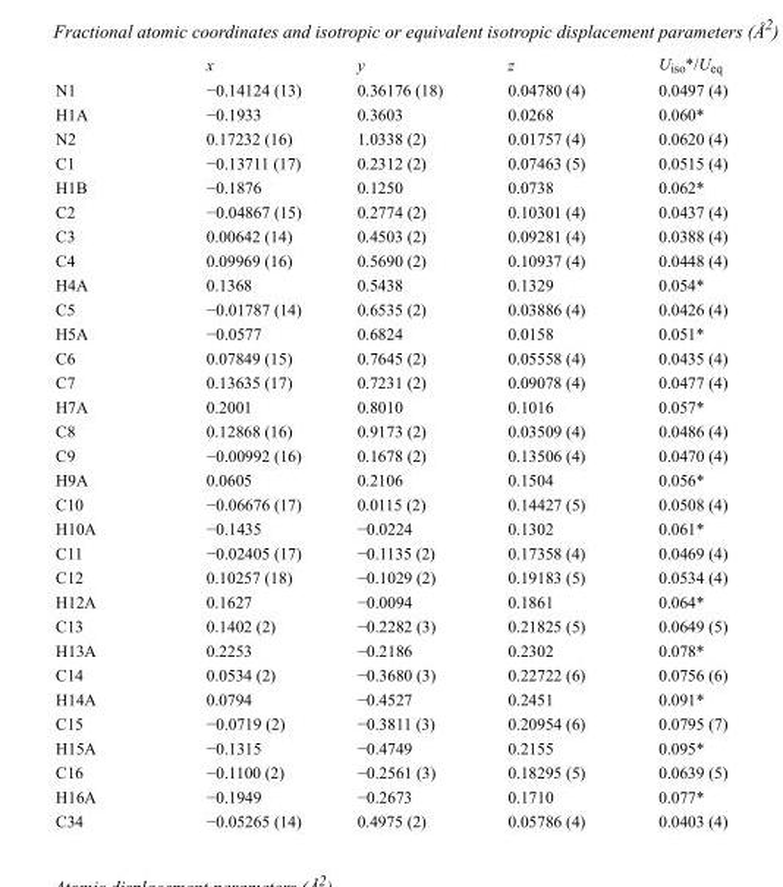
<table><thead><tr><td></td><td>x</td><td>y</td><td>z</td><td>U<sub>iso</sub>*/U<sub>eq</sub></td></tr></thead><tbody><tr><td>N1</td><td>−0.14124 (13)</td><td>0.36176 (18)</td><td>0.04780 (4)</td><td>0.0497 (4)</td></tr><tr><td>H1A</td><td>−0.1933</td><td>0.3603</td><td>0.0268</td><td>0.060*</td></tr><tr><td>N2</td><td>0.17232 (16)</td><td>1.0338 (2)</td><td>0.01757 (4)</td><td>0.0620 (4)</td></tr><tr><td>C1</td><td>−0.13711 (17)</td><td>0.2312 (2)</td><td>0.07463 (5)</td><td>0.0515 (4)</td></tr><tr><td>H1B</td><td>−0.1876</td><td>0.1250</td><td>0.0738</td><td>0.062*</td></tr><tr><td>C2</td><td>−0.04867 (15)</td><td>0.2774 (2)</td><td>0.10301 (4)</td><td>0.0437 (4)</td></tr><tr><td>C3</td><td>0.00642 (14)</td><td>0.4503 (2)</td><td>0.09281 (4)</td><td>0.0388 (4)</td></tr><tr><td>C4</td><td>0.09969 (16)</td><td>0.5690 (2)</td><td>0.10937 (4)</td><td>0.0448 (4)</td></tr><tr><td>H4A</td><td>0.1368</td><td>0.5438</td><td>0.1329</td><td>0.054*</td></tr><tr><td>C5</td><td>−0.01787 (14)</td><td>0.6535 (2)</td><td>0.03886 (4)</td><td>0.0426 (4)</td></tr><tr><td>H5A</td><td>−0.0577</td><td>0.6824</td><td>0.0158</td><td>0.051*</td></tr><tr><td>C6</td><td>0.07849 (15)</td><td>0.7645 (2)</td><td>0.05558 (4)</td><td>0.0435 (4)</td></tr><tr><td>C7</td><td>0.13635 (17)</td><td>0.7231 (2)</td><td>0.09078 (4)</td><td>0.0477 (4)</td></tr><tr><td>H7A</td><td>0.2001</td><td>0.8010</td><td>0.1016</td><td>0.057*</td></tr><tr><td>C8</td><td>0.12868 (16)</td><td>0.9173 (2)</td><td>0.03509 (4)</td><td>0.0486 (4)</td></tr><tr><td>C9</td><td>−0.00992 (16)</td><td>0.1678 (2)</td><td>0.13506 (4)</td><td>0.0470 (4)</td></tr><tr><td>H9A</td><td>0.0605</td><td>0.2106</td><td>0.1504</td><td>0.056*</td></tr><tr><td>C10</td><td>−0.06676 (17)</td><td>0.0115 (2)</td><td>0.14427 (5)</td><td>0.0508 (4)</td></tr><tr><td>H10A</td><td>−0.1435</td><td>−0.0224</td><td>0.1302</td><td>0.061*</td></tr><tr><td>C11</td><td>−0.02405 (17)</td><td>−0.1135 (2)</td><td>0.17358 (4)</td><td>0.0469 (4)</td></tr><tr><td>C12</td><td>0.10257 (18)</td><td>−0.1029 (2)</td><td>0.19183 (5)</td><td>0.0534 (4)</td></tr><tr><td>H12A</td><td>0.1627</td><td>−0.0094</td><td>0.1861</td><td>0.064*</td></tr><tr><td>C13</td><td>0.1402 (2)</td><td>−0.2282 (3)</td><td>0.21825 (5)</td><td>0.0649 (5)</td></tr><tr><td>H13A</td><td>0.2253</td><td>−0.2186</td><td>0.2302</td><td>0.078*</td></tr><tr><td>C14</td><td>0.0534 (2)</td><td>−0.3680 (3)</td><td>0.22722 (6)</td><td>0.0756 (6)</td></tr><tr><td>H14A</td><td>0.0794</td><td>−0.4527</td><td>0.2451</td><td>0.091*</td></tr><tr><td>C15</td><td>−0.0719 (2)</td><td>−0.3811 (3)</td><td>0.20954 (6)</td><td>0.0795 (7)</td></tr><tr><td>H15A</td><td>−0.1315</td><td>−0.4749</td><td>0.2155</td><td>0.095*</td></tr><tr><td>C16</td><td>−0.1100 (2)</td><td>−0.2561 (3)</td><td>0.18295 (5)</td><td>0.0639 (5)</td></tr><tr><td>H16A</td><td>−0.1949</td><td>−0.2673</td><td>0.1710</td><td>0.077*</td></tr><tr><td>C34</td><td>−0.05265 (14)</td><td>0.4975 (2)</td><td>0.05786 (4)</td><td>0.0403 (4)</td></tr></tbody></table>